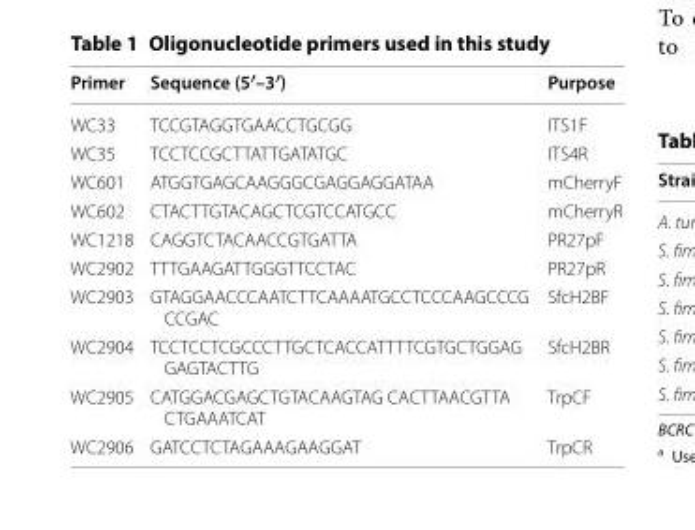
<table><thead><tr><td>Primer</td><td>Sequence (5′–3′)</td><td>Purpose</td></tr></thead><tbody><tr><td>WC33</td><td>TCC GTA GGT GAA CCT GCG G</td><td>ITS1F</td></tr><tr><td>WC35</td><td>TCC TCC GCT TAT TGA TAT GC</td><td>ITS4R</td></tr><tr><td>WC601</td><td>ATG GTG AGC AAG GGC GAG GAG GAT AA</td><td>mCherryF</td></tr><tr><td>WC602</td><td>CTA CTT GTA CAG CTC GTC CAT GCC</td><td>mCherryR</td></tr><tr><td>WC1218</td><td>CAG GTC TAC AAC CGT GAT TA</td><td>PR27pF</td></tr><tr><td>WC2902</td><td>TTT GAA GAT TGG GTT CCT AC</td><td>PR27pR</td></tr><tr><td>WC2903</td><td>GTA GGA ACC CAA TCT TCA AAA TGC CTC CCA AGC CCG CCGAC</td><td>SfcH2BF</td></tr><tr><td>WC2904</td><td>TCC TCC TCG CCC TTG CTC ACC ATT TTC GTG CTG GAG GAG TAC TTG</td><td>SfcH2BR</td></tr><tr><td>WC2905</td><td>CAT GGA CGA GCT GTA CAA GTAG CAC TTA ACG TTA CTG AAA TCAT</td><td>TrpCF</td></tr><tr><td>WC2906</td><td>GAT CCT CTA GAA AGA AGG AT</td><td>TrpCR</td></tr></tbody></table>